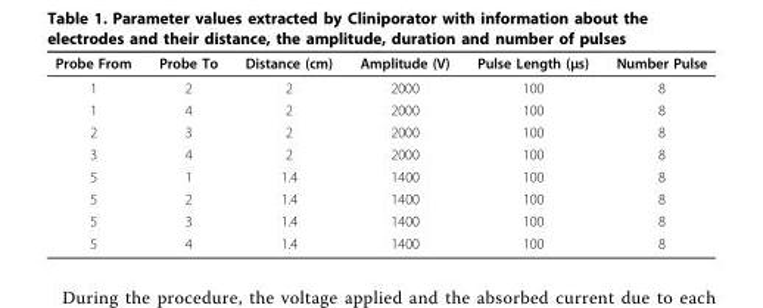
<table><thead><tr><td>Probe From</td><td>Probe To</td><td>Distance (cm)</td><td>Amplitude (V)</td><td>Pulse Length (μs)</td><td>Number Pulse</td></tr></thead><tbody><tr><td>1</td><td>2</td><td>2</td><td>2000</td><td>100</td><td>8</td></tr><tr><td>1</td><td>4</td><td>2</td><td>2000</td><td>100</td><td>8</td></tr><tr><td>2</td><td>3</td><td>2</td><td>2000</td><td>100</td><td>8</td></tr><tr><td>3</td><td>4</td><td>2</td><td>2000</td><td>100</td><td>8</td></tr><tr><td>5</td><td>1</td><td>1.4</td><td>1400</td><td>100</td><td>8</td></tr><tr><td>5</td><td>2</td><td>1.4</td><td>1400</td><td>100</td><td>8</td></tr><tr><td>5</td><td>3</td><td>1.4</td><td>1400</td><td>100</td><td>8</td></tr><tr><td>5</td><td>4</td><td>1.4</td><td>1400</td><td>100</td><td>8</td></tr></tbody></table>